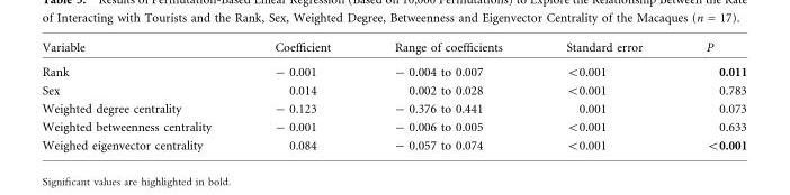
<table><thead><tr><td>Variable</td><td>Coefficient</td><td>Range of coefficients</td><td>Standard error</td><td>P</td></tr></thead><tbody><tr><td>Rank</td><td>- 0.001</td><td>- 0.004 to 0.007</td><td>&lt;0.001</td><td>0.011</td></tr><tr><td>Sex</td><td>0.014</td><td>0.002 to 0.028</td><td>&lt;0.001</td><td>0.783</td></tr><tr><td>Weighted degree centrality</td><td>- 0.123</td><td>- 0.376 to 0.441</td><td>0.001</td><td>0.073</td></tr><tr><td>Weighted betweenness centrality</td><td>- 0.001</td><td>- 0.006 to 0.005</td><td>&lt;0.001</td><td>0.633</td></tr><tr><td>Weighed eigenvector centrality</td><td>0.084</td><td>- 0.057 to 0.074</td><td>&lt;0.001</td><td>&lt;0.001</td></tr></tbody></table>